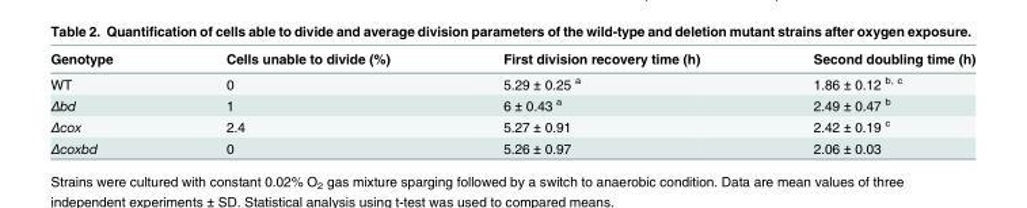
<table><thead><tr><td>Genotype</td><td>Cells unable to divide (%)</td><td>First division recovery time (h)</td><td>Second doubling time (h)</td></tr></thead><tbody><tr><td>WT</td><td>0</td><td>5.29 ± 0.25 <sup>a</sup></td><td>1.86 ± 0.12 <sup>b, c</sup></td></tr><tr><td>Δbd</td><td>1</td><td>6 ± 0.43 <sup>a</sup></td><td>2.49 ± 0.47 <sup>b</sup></td></tr><tr><td>Δcox</td><td>2.4</td><td>5.27 ± 0.91</td><td>2.42 ± 0.19 <sup>c</sup></td></tr><tr><td>Δcoxbd</td><td>0</td><td>5.26 ± 0.97</td><td>2.06 ± 0.03</td></tr></tbody></table>